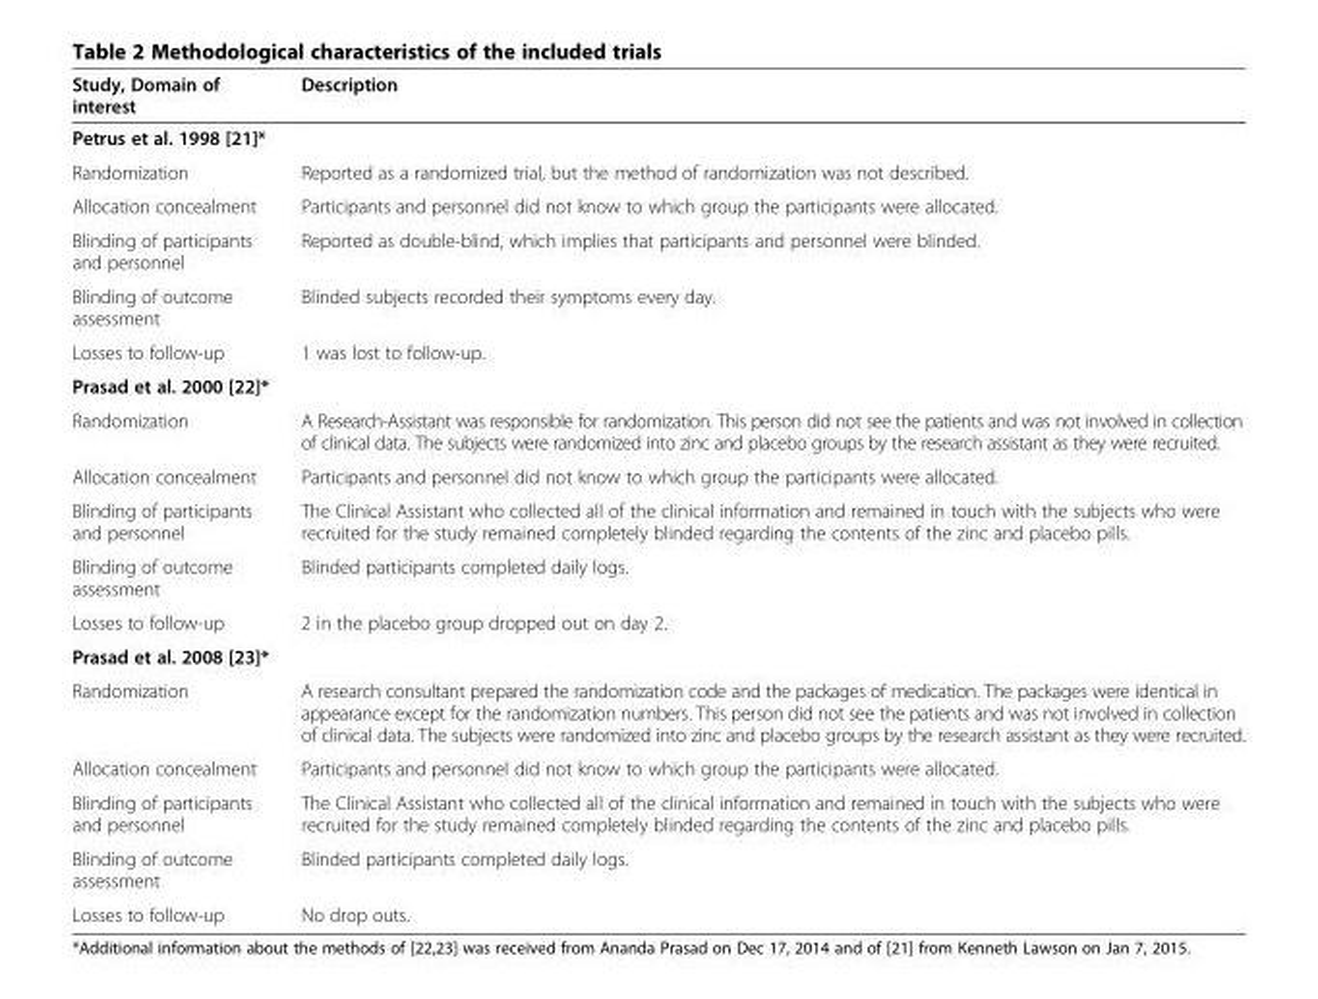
<table><thead><tr><td>Study, Domain of interest</td><td>Description</td></tr></thead><tbody><tr><td colspan="2">Petrus et al. 1998 [21]*</td></tr><tr><td>Randomization</td><td>Reported as a randomized trial, but the method of randomization was not described.</td></tr><tr><td>Allocation concealment</td><td>Participants and personnel did not know to which group the participants were allocated.</td></tr><tr><td>Blinding of participants and personnel</td><td>Reported as double-blind, which implies that participants and personnel were blinded.</td></tr><tr><td>Blinding of outcome assessment</td><td>Blinded subjects recorded their symptoms every day.</td></tr><tr><td>Losses to follow-up</td><td>1 was lost to follow-up.</td></tr><tr><td colspan="2">Prasad et al. 2000 [22]*</td></tr><tr><td>Randomization</td><td>A Research-Assistant was responsible for randomization. This person did not see the patients and was not involved in collection of clinical data. The subjects were randomized into zinc and placebo groups by the research assistant as they were recruited.</td></tr><tr><td>Allocation concealment</td><td>Participants and personnel did not know to which group the participants were allocated.</td></tr><tr><td>Blinding of participants and personnel</td><td>The Clinical Assistant who collected all of the clinical information and remained in touch with the subjects who were recruited for the study remained completely blinded regarding the contents of the zinc and placebo pills.</td></tr><tr><td>Blinding of outcome assessment</td><td>Blinded participants completed daily logs.</td></tr><tr><td>Losses to follow-up</td><td>2 in the placebo group dropped out on day 2.</td></tr><tr><td colspan="2">Prasad et al. 2008 [23]*</td></tr><tr><td>Randomization</td><td>A research consultant prepared the randomization code and the packages of medication. The packages were identical in appearance except for the randomization numbers. This person did not see the patients and was not involved in collection of clinical data. The subjects were randomized into zinc and placebo groups by the research assistant as they were recruited.</td></tr><tr><td>Allocation concealment</td><td>Participants and personnel did not know to which group the participants were allocated.</td></tr><tr><td>Blinding of participants and personnel</td><td>The Clinical Assistant who collected all of the clinical information and remained in touch with the subjects who were recruited for the study remained completely blinded regarding the contents of the zinc and placebo pills.</td></tr><tr><td>Blinding of outcome assessment</td><td>Blinded participants completed daily logs.</td></tr><tr><td>Losses to follow-up</td><td>No drop outs.</td></tr></tbody></table>